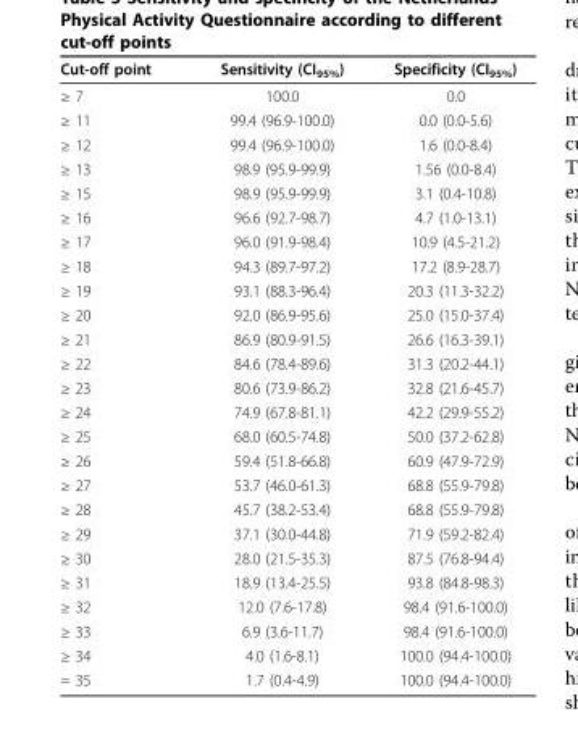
<table><thead><tr><td>Cut-off point</td><td>Sensitivity (CI<sub>95%</sub>)</td><td>Specificity (CI<sub>95%</sub>)</td></tr></thead><tbody><tr><td>≥ 7</td><td>100.0</td><td>0.0</td></tr><tr><td>≥ 11</td><td>99.4 (96.9-100.0)</td><td>0.0 (0.0-5.6)</td></tr><tr><td>≥ 12</td><td>99.4 (96.9-100.0)</td><td>1.6 (0.0-8.4)</td></tr><tr><td>≥ 13</td><td>98.9 (95.9-99.9)</td><td>1.56 (0.0-8.4)</td></tr><tr><td>≥ 15</td><td>98.9 (95.9-99.9)</td><td>3.1 (0.4-10.8)</td></tr><tr><td>≥ 16</td><td>96.6 (92.7-98.7)</td><td>4.7 (1.0-13.1)</td></tr><tr><td>≥ 17</td><td>96.0 (91.9-98.4)</td><td>10.9 (4.5-21.2)</td></tr><tr><td>≥ 18</td><td>94.3 (89.7-97.2)</td><td>17.2 (8.9-28.7)</td></tr><tr><td>≥ 19</td><td>93.1 (88.3-96.4)</td><td>20.3 (11.3-32.2)</td></tr><tr><td>≥ 20</td><td>92.0 (86.9-95.6)</td><td>25.0 (15.0-37.4)</td></tr><tr><td>≥ 21</td><td>86.9 (80.9-91.5)</td><td>26.6 (16.3-39.1)</td></tr><tr><td>≥ 22</td><td>84.6 (78.4-89.6)</td><td>31.3 (20.2-44.1)</td></tr><tr><td>≥ 23</td><td>80.6 (73.9-86.2)</td><td>32.8 (21.6-45.7)</td></tr><tr><td>≥ 24</td><td>74.9 (67.8-81.1)</td><td>42.2 (29.9-55.2)</td></tr><tr><td>≥ 25</td><td>68.0 (60.5-74.8)</td><td>50.0 (37.2-62.8)</td></tr><tr><td>≥ 26</td><td>59.4 (51.8-66.8)</td><td>60.9 (47.9-72.9)</td></tr><tr><td>≥ 27</td><td>53.7 (46.0-61.3)</td><td>68.8 (55.9-79.8)</td></tr><tr><td>≥ 28</td><td>45.7 (38.2-53.4)</td><td>68.8 (55.9-79.8)</td></tr><tr><td>≥ 29</td><td>37.1 (30.0-44.8)</td><td>71.9 (59.2-82.4)</td></tr><tr><td>≥ 30</td><td>28.0 (21.5-35.3)</td><td>87.5 (76.8-94.4)</td></tr><tr><td>≥ 31</td><td>18.9 (13.4-25.5)</td><td>93.8 (84.8-98.3)</td></tr><tr><td>≥ 32</td><td>12.0 (7.6-17.8)</td><td>98.4 (91.6-100.0)</td></tr><tr><td>≥ 33</td><td>6.9 (3.6-11.7)</td><td>98.4 (91.6-100.0)</td></tr><tr><td>≥ 34</td><td>4.0 (1.6-8.1)</td><td>100.0 (94.4-100.0)</td></tr><tr><td>= 35</td><td>1.7 (0.4-4.9)</td><td>100.0 (94.4-100.0)</td></tr></tbody></table>